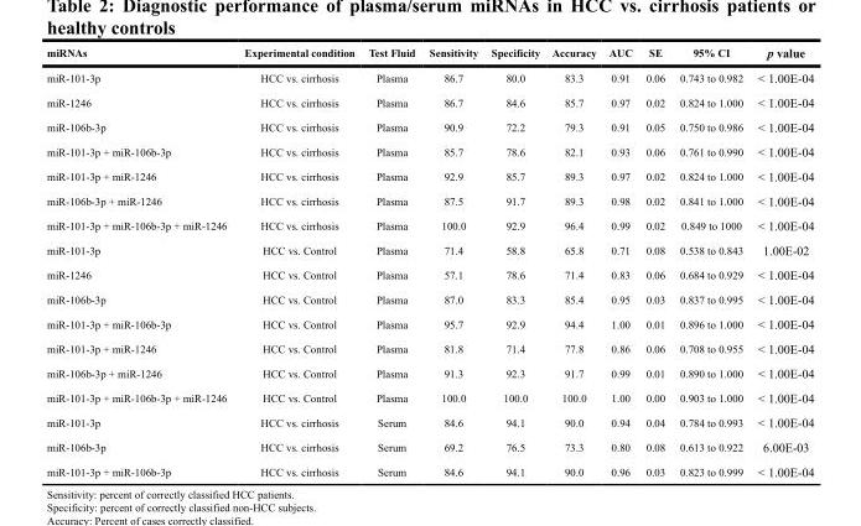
<table><thead><tr><td>miRNAs</td><td>Experimental condition</td><td>Test Fluid</td><td>Sensitivity</td><td>Specificity</td><td>Accuracy</td><td>AUC</td><td>SE</td><td>95% CI</td><td>p value</td></tr></thead><tbody><tr><td>miR-101-3p</td><td>HCC vs. cirrhosis</td><td>Plasma</td><td>86.7</td><td>80.0</td><td>83.3</td><td>0.91</td><td>0.06</td><td>0.743 to 0.982</td><td>&lt; 1.00E-04</td></tr><tr><td>miR-1246</td><td>HCC vs. cirrhosis</td><td>Plasma</td><td>86.7</td><td>84.6</td><td>85.7</td><td>0.97</td><td>0.02</td><td>0.824 to 1.000</td><td>&lt; 1.00E-04</td></tr><tr><td>miR-106b-3p</td><td>HCC vs. cirrhosis</td><td>Plasma</td><td>90.9</td><td>72.2</td><td>79.3</td><td>0.91</td><td>0.05</td><td>0.750 to 0.986</td><td>&lt; 1.00E-04</td></tr><tr><td>miR-101-3p + miR-106b-3p</td><td>HCC vs. cirrhosis</td><td>Plasma</td><td>85.7</td><td>78.6</td><td>82.1</td><td>0.93</td><td>0.06</td><td>0.761 to 0.990</td><td>&lt; 1.00E-04</td></tr><tr><td>miR-101-3p + miR-1246</td><td>HCC vs. cirrhosis</td><td>Plasma</td><td>92.9</td><td>85.7</td><td>89.3</td><td>0.97</td><td>0.02</td><td>0.824 to 1.000</td><td>&lt; 1.00E-04</td></tr><tr><td>miR-106b-3p + miR-1246</td><td>HCC vs. cirrhosis</td><td>Plasma</td><td>87.5</td><td>91.7</td><td>89.3</td><td>0.98</td><td>0.02</td><td>0.841 to 1.000</td><td>&lt; 1.00E-04</td></tr><tr><td>miR-101-3p + miR-106b-3p + miR-1246</td><td>HCC vs. cirrhosis</td><td>Plasma</td><td>100.0</td><td>92.9</td><td>96.4</td><td>0.99</td><td>0.02</td><td>0.849 to 1000</td><td>&lt; 1.00E-04</td></tr><tr><td>miR-101-3p</td><td>HCC vs. Control</td><td>Plasma</td><td>71.4</td><td>58.8</td><td>65.8</td><td>0.71</td><td>0.08</td><td>0.538 to 0.843</td><td>1.00E-02</td></tr><tr><td>miR-1246</td><td>HCC vs. Control</td><td>Plasma</td><td>57.1</td><td>78.6</td><td>71.4</td><td>0.83</td><td>0.06</td><td>0.684 to 0.929</td><td>&lt; 1.00E-04</td></tr><tr><td>miR-106b-3p</td><td>HCC vs. Control</td><td>Plasma</td><td>87.0</td><td>83.3</td><td>85.4</td><td>0.95</td><td>0.03</td><td>0.837 to 0.995</td><td>&lt; 1.00E-04</td></tr><tr><td>miR-101-3p + miR-106b-3p</td><td>HCC vs. Control</td><td>Plasma</td><td>95.7</td><td>92.9</td><td>94.4</td><td>1.00</td><td>0.01</td><td>0.896 to 1.000</td><td>&lt; 1.00E-04</td></tr><tr><td>miR-101-3p + miR-1246</td><td>HCC vs. Control</td><td>Plasma</td><td>81.8</td><td>71.4</td><td>77.8</td><td>0.86</td><td>0.06</td><td>0.708 to 0.955</td><td>&lt; 1.00E-04</td></tr><tr><td>miR-106b-3p + miR-1246</td><td>HCC vs. Control</td><td>Plasma</td><td>91.3</td><td>92.3</td><td>91.7</td><td>0.99</td><td>0.01</td><td>0.890 to 1.000</td><td>&lt; 1.00E-04</td></tr><tr><td>miR-101-3p + miR-106b-3p + miR-1246</td><td>HCC vs. Control</td><td>Plasma</td><td>100.0</td><td>100.0</td><td>100.0</td><td>1.00</td><td>0.00</td><td>0.903 to 1.000</td><td>&lt; 1.00E-04</td></tr><tr><td>miR-101-3p</td><td>HCC vs. cirrhosis</td><td>Serum</td><td>84.6</td><td>94.1</td><td>90.0</td><td>0.94</td><td>0.04</td><td>0.784 to 0.993</td><td>&lt; 1.00E-04</td></tr><tr><td>miR-106b-3p</td><td>HCC vs. cirrhosis</td><td>Serum</td><td>69.2</td><td>76.5</td><td>73.3</td><td>0.80</td><td>0.08</td><td>0.613 to 0.922</td><td>6.00E-03</td></tr><tr><td>miR-101-3p + miR-106b-3p</td><td>HCC vs. cirrhosis</td><td>Serum</td><td>84.6</td><td>94.1</td><td>90.0</td><td>0.96</td><td>0.03</td><td>0.823 to 0.999</td><td>&lt; 1.00E-04</td></tr></tbody></table>